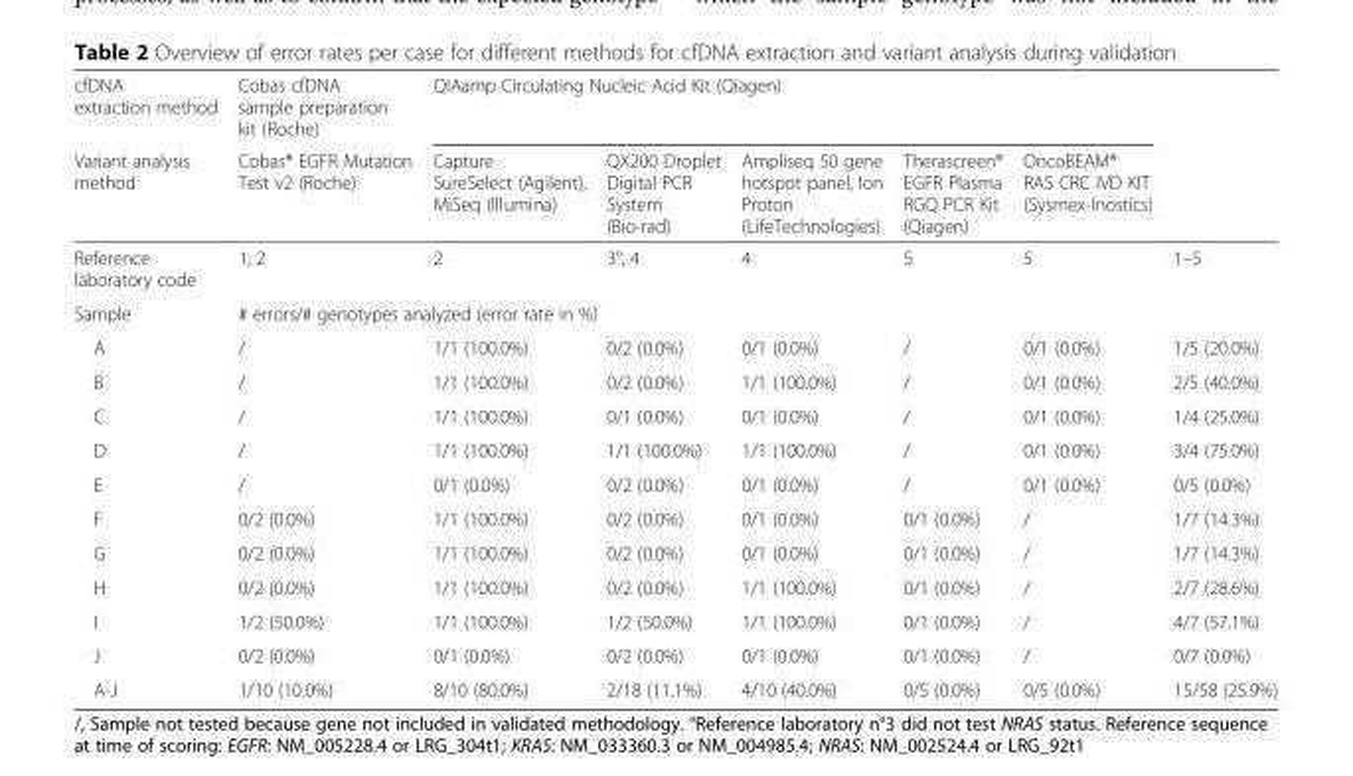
<table><thead><tr><td rowspan="2">cfDNA extraction method Variant analysis method</td><td rowspan="2">Cobas cfDNA sample preparation kit (Roche) Cobas® EGFR Mutation Test v2 (Roche)</td><td colspan="5">QIAamp Circulating Nucleic Acid Kit (Qiagen)</td><td rowspan="2"></td></tr><tr><td>Capture SureSelect (Agilent), MiSeq (Illumina)</td><td>QX200 Droplet Digital PCR System (Bio-rad)</td><td>Ampliseq 50 gene hotspot panel, Ion Proton (LifeTechnologies)</td><td>Therascreen® EGFR Plasma RGQ PCR Kit (Qiagen)</td><td>OncoBEAM® RAS CRC IVD KIT (Sysmex-Inostics)</td></tr></thead><tbody><tr><td>Reference laboratory code</td><td>1, 2</td><td>2</td><td>3°, 4</td><td>4</td><td>5</td><td>5</td><td>1–5</td></tr><tr><td>Sample</td><td colspan="7"># errors/# genotypes analyzed (error rate in %)</td></tr><tr><td>A</td><td>/</td><td>1/1 (100.0%)</td><td>0/2 (0.0%)</td><td>0/1 (0.0%)</td><td>/</td><td>0/1 (0.0%)</td><td>1/5 (20.0%)</td></tr><tr><td>B</td><td>/</td><td>1/1 (100.0%)</td><td>0/2 (0.0%)</td><td>1/1 (100.0%)</td><td>/</td><td>0/1 (0.0%)</td><td>2/5 (40.0%)</td></tr><tr><td>C</td><td>/</td><td>1/1 (100.0%)</td><td>0/1 (0.0%)</td><td>0/1 (0.0%)</td><td>/</td><td>0/1 (0.0%)</td><td>1/4 (25.0%)</td></tr><tr><td>D</td><td>/</td><td>1/1 (100.0%)</td><td>1/1 (100.0%)</td><td>1/1 (100.0%)</td><td>/</td><td>0/1 (0.0%)</td><td>3/4 (75.0%)</td></tr><tr><td>E</td><td>/</td><td>0/1 (0.0%)</td><td>0/2 (0.0%)</td><td>0/1 (0.0%)</td><td>/</td><td>0/1 (0.0%)</td><td>0/5 (0.0%)</td></tr><tr><td>F</td><td>0/2 (0.0%)</td><td>1/1 (100.0%)</td><td>0/2 (0.0%)</td><td>0/1 (0.0%)</td><td>0/1 (0.0%)</td><td>/</td><td>1/7 (14.3%)</td></tr><tr><td>G</td><td>0/2 (0.0%)</td><td>1/1 (100.0%)</td><td>0/2 (0.0%)</td><td>0/1 (0.0%)</td><td>0/1 (0.0%)</td><td>/</td><td>1/7 (14.3%)</td></tr><tr><td>H</td><td>0/2 (0.0%)</td><td>1/1 (100.0%)</td><td>0/2 (0.0%)</td><td>1/1 (100.0%)</td><td>0/1 (0.0%)</td><td>/</td><td>2/7 (28.6%)</td></tr><tr><td>I</td><td>1/2 (50.0%)</td><td>1/1 (100.0%)</td><td>1/2 (50.0%)</td><td>1/1 (100.0%)</td><td>0/1 (0.0%)</td><td>/</td><td>4/7 (57.1%)</td></tr><tr><td>J</td><td>0/2 (0.0%)</td><td>0/1 (0.0%)</td><td>0/2 (0.0%)</td><td>0/1 (0.0%)</td><td>0/1 (0.0%)</td><td>/</td><td>0/7 (0.0%)</td></tr><tr><td>A-J</td><td>1/10 (10.0%)</td><td>8/10 (80.0%)</td><td>2/18 (11.1%)</td><td>4/10 (40.0%)</td><td>0/5 (0.0%)</td><td>0/5 (0.0%)</td><td>15/58 (25.9%)</td></tr></tbody></table>